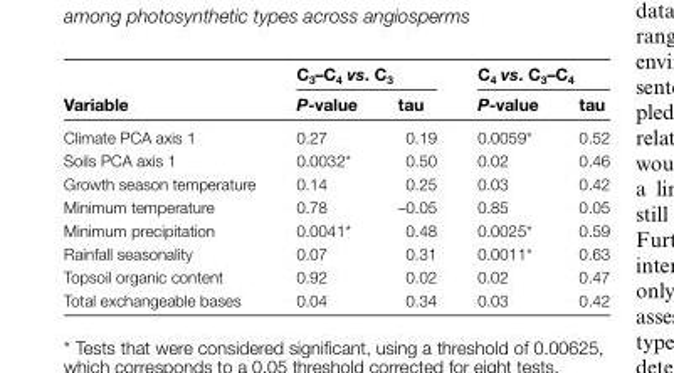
<table><thead><tr><td rowspan="2">Variable</td><td colspan="2">C<sub>3</sub>–C<sub>4</sub> vs. C<sub>3</sub></td><td colspan="2">C<sub>4</sub> vs. C<sub>3</sub>–C<sub>4</sub></td></tr><tr><td>P-value</td><td>tau</td><td>P-value</td><td>tau</td></tr></thead><tbody><tr><td>Climate PCA axis 1</td><td>0.27</td><td>0.19</td><td>0.0059*</td><td>0.52</td></tr><tr><td>Soils PCA axis 1</td><td>0.0032*</td><td>0.50</td><td>0.02</td><td>0.46</td></tr><tr><td>Growth season temperature</td><td>0.14</td><td>0.25</td><td>0.03</td><td>0.42</td></tr><tr><td>Minimum temperature</td><td>0.78</td><td>–0.05</td><td>0.85</td><td>0.05</td></tr><tr><td>Minimum precipitation</td><td>0.0041*</td><td>0.48</td><td>0.0025*</td><td>0.59</td></tr><tr><td>Rainfall seasonality</td><td>0.07</td><td>0.31</td><td>0.0011*</td><td>0.63</td></tr><tr><td>Topsoil organic content</td><td>0.92</td><td>0.02</td><td>0.02</td><td>0.47</td></tr><tr><td>Total exchangeable bases</td><td>0.04</td><td>0.34</td><td>0.03</td><td>0.42</td></tr></tbody></table>